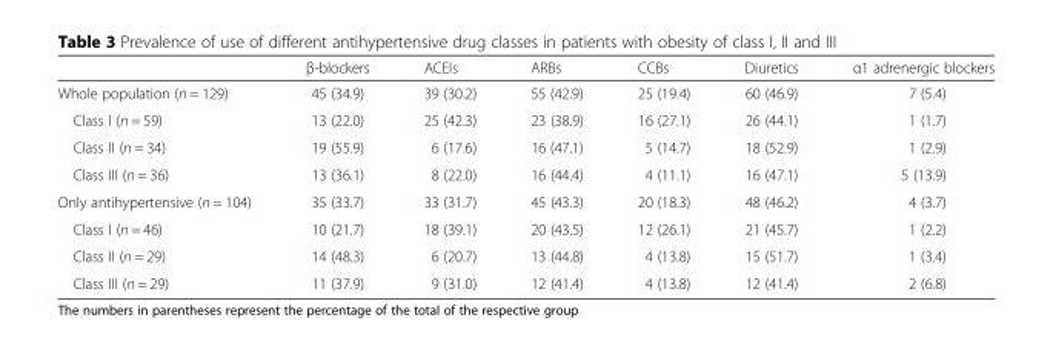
<table><thead><tr><td></td><td>β-blockers</td><td>ACEIs</td><td>ARBs</td><td>CCBs</td><td>Diuretics</td><td>α1 adrenergic blockers</td></tr></thead><tbody><tr><td>Whole population (n = 129)</td><td>45 (34.9)</td><td>39 (30.2)</td><td>55 (42.9)</td><td>25 (19.4)</td><td>60 (46.9)</td><td>7 (5.4)</td></tr><tr><td>Class I (n = 59)</td><td>13 (22.0)</td><td>25 (42.3)</td><td>23 (38.9)</td><td>16 (27.1)</td><td>26 (44.1)</td><td>1 (1.7)</td></tr><tr><td>Class II (n = 34)</td><td>19 (55.9)</td><td>6 (17.6)</td><td>16 (47.1)</td><td>5 (14.7)</td><td>18 (52.9)</td><td>1 (2.9)</td></tr><tr><td>Class III (n = 36)</td><td>13 (36.1)</td><td>8 (22.0)</td><td>16 (44.4)</td><td>4 (11.1)</td><td>16 (47.1)</td><td>5 (13.9)</td></tr><tr><td>Only antihypertensive (n = 104)</td><td>35 (33.7)</td><td>33 (31.7)</td><td>45 (43.3)</td><td>20 (18.3)</td><td>48 (46.2)</td><td>4 (3.7)</td></tr><tr><td>Class I (n = 46)</td><td>10 (21.7)</td><td>18 (39.1)</td><td>20 (43.5)</td><td>12 (26.1)</td><td>21 (45.7)</td><td>1 (2.2)</td></tr><tr><td>Class II (n = 29)</td><td>14 (48.3)</td><td>6 (20.7)</td><td>13 (44.8)</td><td>4 (13.8)</td><td>15 (51.7)</td><td>1 (3.4)</td></tr><tr><td>Class III (n = 29)</td><td>11 (37.9)</td><td>9 (31.0)</td><td>12 (41.4)</td><td>4 (13.8)</td><td>12 (41.4)</td><td>2 (6.8)</td></tr></tbody></table>